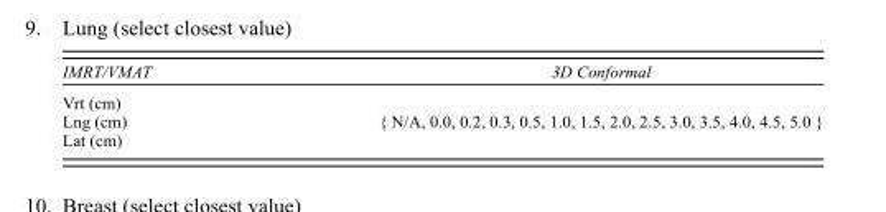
<table><thead><tr><td>IMRT/VMAT</td><td>3D Conformal</td></tr></thead><tbody><tr><td colspan="2">Vrt (cm)</td></tr><tr><td>Lng (cm)</td><td>{ N/A, 0.0, 0.2, 0.3, 0.5, 1.0, 1.5, 2.0, 2.5, 3.0, 3.5, 4.0, 4.5, 5.0 }</td></tr><tr><td>Lat (cm)</td><td></td></tr></tbody></table>